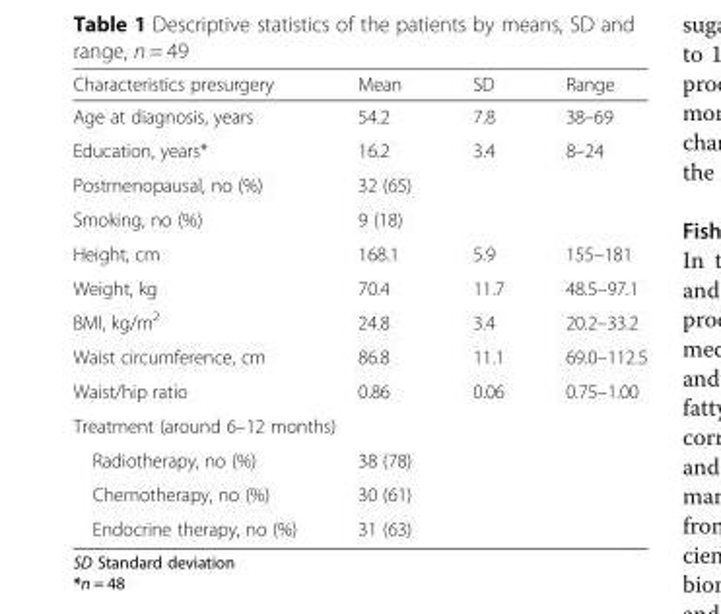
<table><thead><tr><td>Characteristics presurgery</td><td>Mean</td><td>SD</td><td>Range</td></tr></thead><tbody><tr><td>Age at diagnosis, years</td><td>54.2</td><td>7.8</td><td>38–69</td></tr><tr><td>Education, years*</td><td>16.2</td><td>3.4</td><td>8–24</td></tr><tr><td>Postmenopausal, no (%)</td><td>32 (65)</td><td></td><td></td></tr><tr><td>Smoking, no (%)</td><td>9 (18)</td><td></td><td></td></tr><tr><td>Height, cm</td><td>168.1</td><td>5.9</td><td>155–181</td></tr><tr><td>Weight, kg</td><td>70.4</td><td>11.7</td><td>48.5–97.1</td></tr><tr><td>BMI, kg/m<sup>2</sup></td><td>24.8</td><td>3.4</td><td>20.2–33.2</td></tr><tr><td>Waist circumference, cm</td><td>86.8</td><td>11.1</td><td>69.0–112.5</td></tr><tr><td>Waist/hip ratio</td><td>0.86</td><td>0.06</td><td>0.75–1.00</td></tr><tr><td colspan="4">Treatment (around 6–12 months)</td></tr><tr><td>Radiotherapy, no (%)</td><td>38 (78)</td><td></td><td></td></tr><tr><td>Chemotherapy, no (%)</td><td>30 (61)</td><td></td><td></td></tr><tr><td>Endocrine therapy, no (%)</td><td>31 (63)</td><td></td><td></td></tr></tbody></table>